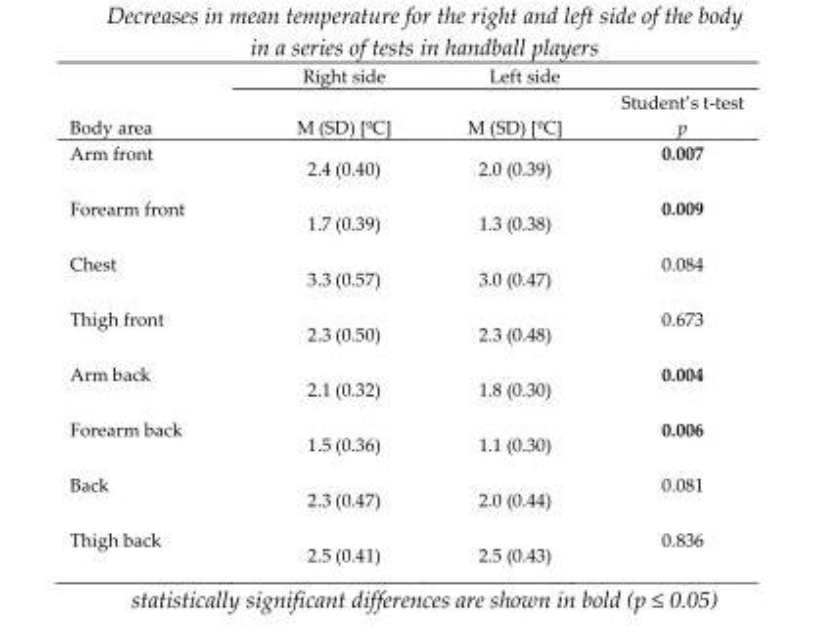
<table><thead><tr><td rowspan="2">Body area</td><td rowspan="2">Right side M (SD) [ºC]</td><td rowspan="2">Left side M (SD) [ºC]</td><td rowspan="2">Student’s t-test p</td></tr><tr></tr></thead><tbody><tr><td>Arm front</td><td>2.4 (0.40)</td><td>2.0 (0.39)</td><td>0.007</td></tr><tr><td>Forearm front</td><td>1.7 (0.39)</td><td>1.3 (0.38)</td><td>0.009</td></tr><tr><td>Chest</td><td>3.3 (0.57)</td><td>3.0 (0.47)</td><td>0.084</td></tr><tr><td>Thigh front</td><td>2.3 (0.50)</td><td>2.3 (0.48)</td><td>0.673</td></tr><tr><td>Arm back</td><td>2.1 (0.32)</td><td>1.8 (0.30)</td><td>0.004</td></tr><tr><td>Forearm back</td><td>1.5 (0.36)</td><td>1.1 (0.30)</td><td>0.006</td></tr><tr><td>Back</td><td>2.3 (0.47)</td><td>2.0 (0.44)</td><td>0.081</td></tr><tr><td>Thigh back</td><td>2.5 (0.41)</td><td>2.5 (0.43)</td><td>0.836</td></tr></tbody></table>